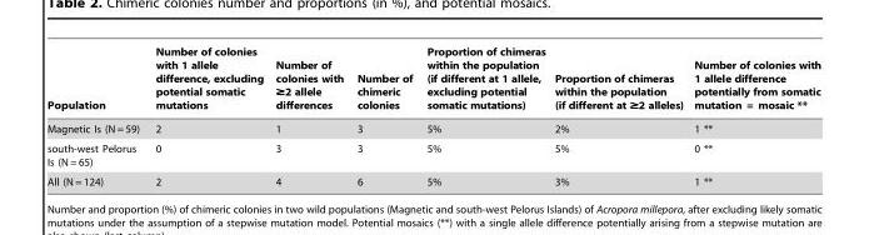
<table><thead><tr><td>Population</td><td>Number of colonies with 1 allele difference, excluding potential somatic mutations</td><td>Number of colonies with ≥2 allele differences</td><td>Number of chimeric colonies</td><td>Proportion of chimeras within the population (if different at 1 allele, excluding potential somatic mutations)</td><td>Proportion of chimeras within the population (if different at ≥2 alleles)</td><td>Number of colonies with 1 allele difference potentially from somatic mutation = mosaic **</td></tr></thead><tbody><tr><td>Magnetic Is (N = 59)</td><td>2</td><td>1</td><td>3</td><td>5%</td><td>2%</td><td>1 **</td></tr><tr><td>south-west Pelorus Is (N = 65)</td><td>0</td><td>3</td><td>3</td><td>5%</td><td>5%</td><td>0 **</td></tr><tr><td>All (N = 124)</td><td>2</td><td>4</td><td>6</td><td>5%</td><td>3%</td><td>1 **</td></tr></tbody></table>